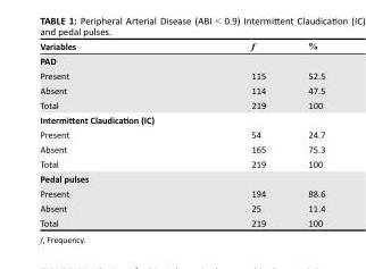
<table><thead><tr><td>Variables</td><td>f</td><td>%</td></tr></thead><tbody><tr><td colspan="3">PAD</td></tr><tr><td>Present</td><td>115</td><td>52.5</td></tr><tr><td>Absent</td><td>114</td><td>47.5</td></tr><tr><td>Total</td><td>219</td><td>100</td></tr><tr><td colspan="3">Intermittent Claudication (IC)</td></tr><tr><td>Present</td><td>54</td><td>24.7</td></tr><tr><td>Absent</td><td>165</td><td>75.3</td></tr><tr><td>Total</td><td>219</td><td>100</td></tr><tr><td colspan="3">Pedal pulses</td></tr><tr><td>Present</td><td>194</td><td>88.6</td></tr><tr><td>Absent</td><td>25</td><td>11.4</td></tr><tr><td>Total</td><td>219</td><td>100</td></tr></tbody></table>